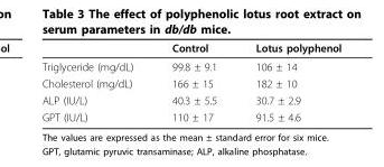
<table><thead><tr><td></td><td>Control</td><td>Lotus polyphenol</td></tr></thead><tbody><tr><td>Triglyceride (mg/dL)</td><td>99.8 ± 9.1</td><td>106 ± 14</td></tr><tr><td>Cholesterol (mg/dL)</td><td>166 ± 15</td><td>182 ± 10</td></tr><tr><td>ALP (IU/L)</td><td>40.3 ± 5.5</td><td>30.7 ± 2.9</td></tr><tr><td>GPT (IU/L)</td><td>110 ± 17</td><td>91.5 ± 4.6</td></tr></tbody></table>